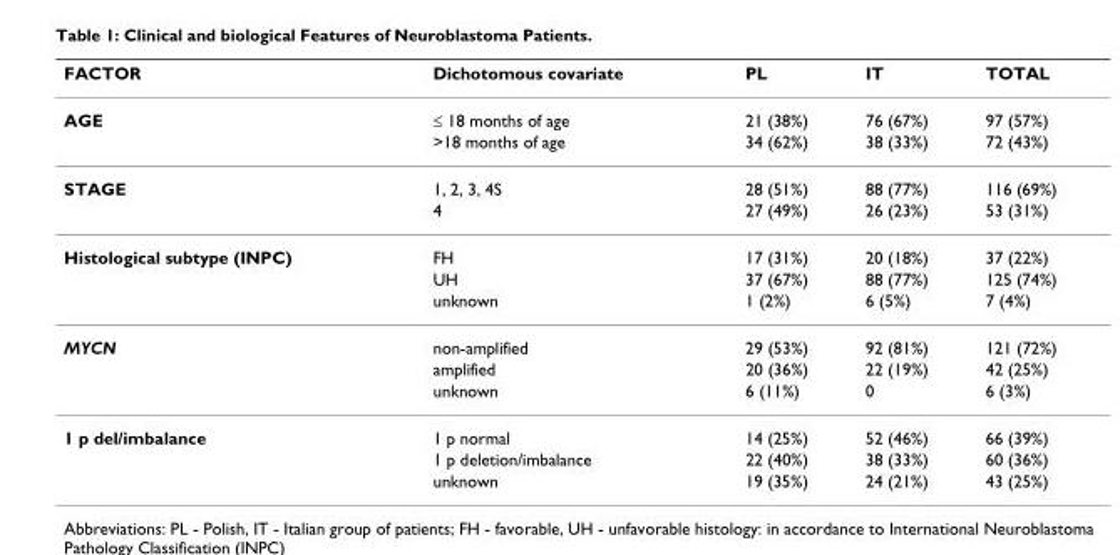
<table><thead><tr><td>FACTOR</td><td>Dichotomous covariate</td><td>PL</td><td>IT</td><td>TOTAL</td></tr></thead><tbody><tr><td rowspan="2">AGE</td><td>≤ 18 months of age</td><td>21 (38%)</td><td>76 (67%)</td><td>97 (57%)</td></tr><tr><td>&gt;18 months of age</td><td>34 (62%)</td><td>38 (33%)</td><td>72 (43%)</td></tr><tr><td rowspan="2">STAGE</td><td>1, 2, 3, 4S</td><td>28 (51%)</td><td>88 (77%)</td><td>116 (69%)</td></tr><tr><td>4</td><td>27 (49%)</td><td>26 (23%)</td><td>53 (31%)</td></tr><tr><td rowspan="3">Histological subtype (INPC)</td><td>FH</td><td>17 (31%)</td><td>20 (18%)</td><td>37 (22%)</td></tr><tr><td>UH</td><td>37 (67%)</td><td>88 (77%)</td><td>125 (74%)</td></tr><tr><td>unknown</td><td>1 (2%)</td><td>6 (5%)</td><td>7 (4%)</td></tr><tr><td rowspan="3">MYCN</td><td>non-amplified</td><td>29 (53%)</td><td>92 (81%)</td><td>121 (72%)</td></tr><tr><td>amplified</td><td>20 (36%)</td><td>22 (19%)</td><td>42 (25%)</td></tr><tr><td>unknown</td><td>6 (11%)</td><td>0</td><td>6 (3%)</td></tr><tr><td rowspan="3">1 p del/imbalance</td><td>1 p normal</td><td>14 (25%)</td><td>52 (46%)</td><td>66 (39%)</td></tr><tr><td>1 p deletion/imbalance</td><td>22 (40%)</td><td>38 (33%)</td><td>60 (36%)</td></tr><tr><td>unknown</td><td>19 (35%)</td><td>24 (21%)</td><td>43 (25%)</td></tr></tbody></table>